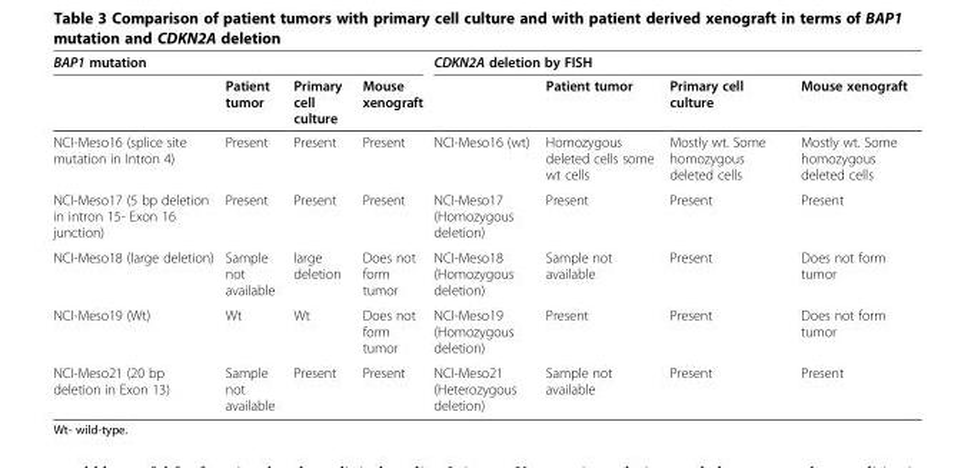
<table><thead><tr><td colspan="4">BAP1 mutation</td><td colspan="4">CDKN2A deletion by FISH</td></tr><tr><td></td><td>Patient tumor</td><td>Primary cell culture</td><td>Mouse xenograft</td><td></td><td>Patient tumor</td><td>Primary cell culture</td><td>Mouse xenograft</td></tr></thead><tbody><tr><td>NCI-Meso16 (splice site mutation in Intron 4)</td><td>Present</td><td>Present</td><td>Present</td><td>NCI-Meso16 (wt)</td><td>Homozygous deleted cells some wt cells</td><td>Mostly wt. Some homozygous deleted cells</td><td>Mostly wt. Some homozygous deleted cells</td></tr><tr><td>NCI-Meso17 (5 bp deletion in intron 15- Exon 16 junction)</td><td>Present</td><td>Present</td><td>Present</td><td>NCI-Meso17 (Homozygous deletion)</td><td>Present</td><td>Present</td><td>Present</td></tr><tr><td>NCI-Meso18 (large deletion)</td><td>Sample not available</td><td>large deletion</td><td>Does not form tumor</td><td>NCI-Meso18 (Homozygous deletion)</td><td>Sample not available</td><td>Present</td><td>Does not form tumor</td></tr><tr><td>NCI-Meso19 (Wt)</td><td>Wt</td><td>Wt</td><td>Does not form tumor</td><td>NCI-Meso19 (Homozygous deletion)</td><td>Present</td><td>Present</td><td>Does not form tumor</td></tr><tr><td>NCI-Meso21 (20 bp deletion in Exon 13)</td><td>Sample not available</td><td>Present</td><td>Present</td><td>NCI-Meso21 (Heterozygous deletion)</td><td>Sample not available</td><td>Present</td><td>Present</td></tr></tbody></table>